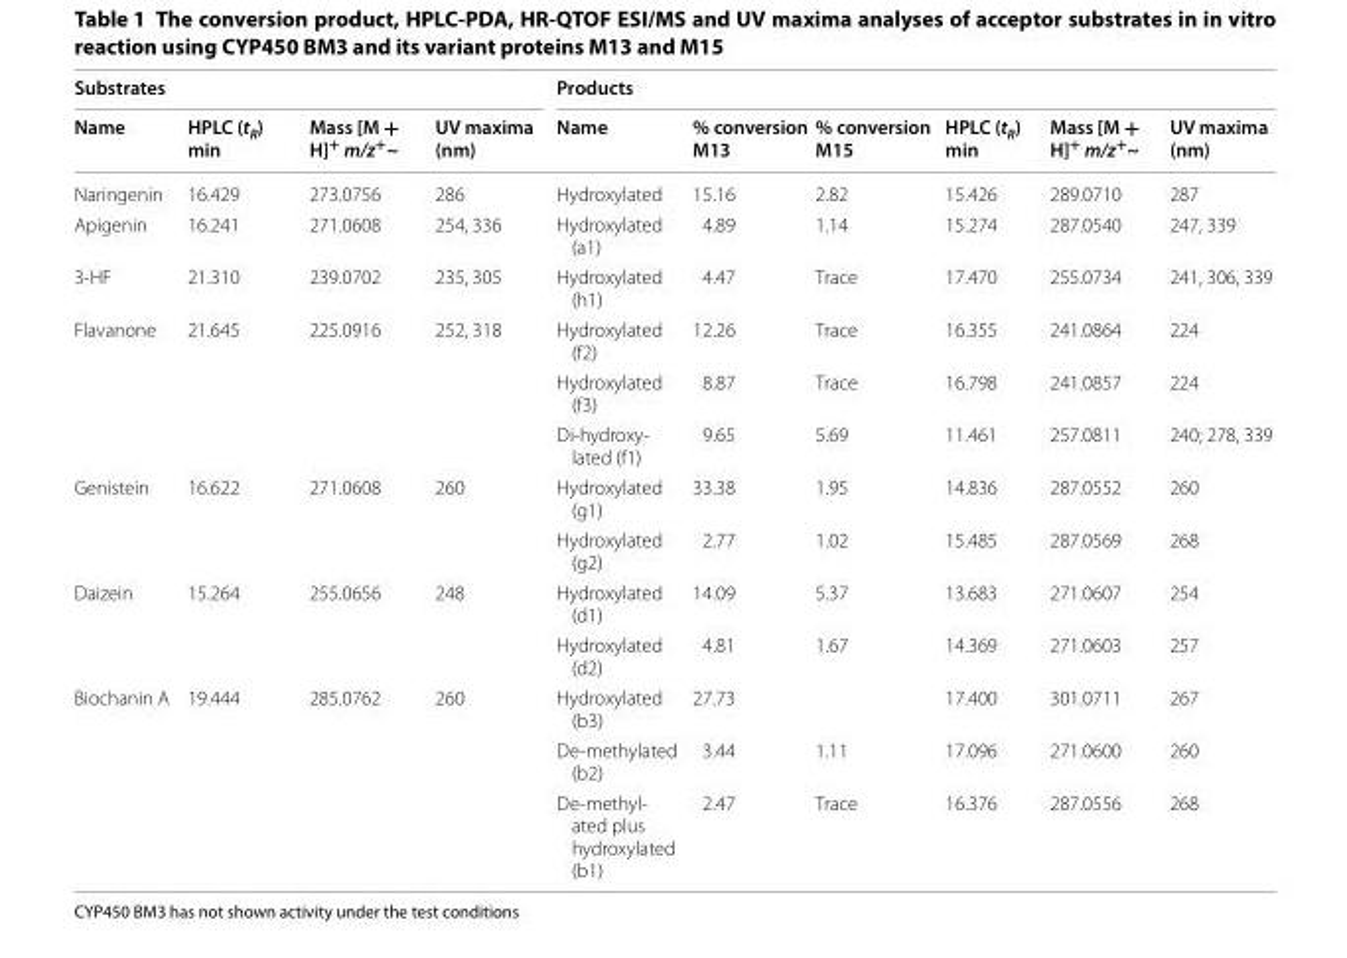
<table><thead><tr><td colspan="4">Substrates</td><td colspan="6">Products</td></tr><tr><td>Name</td><td>HPLC (t<sub>R</sub>) min</td><td>Mass [M + H]<sup>+</sup> m/z<sup>+</sup>~</td><td>UV maxima (nm)</td><td>Name</td><td>% conversion M13</td><td>% conversion M15</td><td>HPLC (t<sub>R</sub>) min</td><td>Mass [M + H]<sup>+</sup> m/z<sup>+</sup>~</td><td>UV maxima (nm)</td></tr></thead><tbody><tr><td>Naringenin</td><td>16.429</td><td>273.0756</td><td>286</td><td>Hydroxylated</td><td>15.16</td><td>2.82</td><td>15.426</td><td>289.0710</td><td>287</td></tr><tr><td>Apigenin</td><td>16.241</td><td>271.0608</td><td>254, 336</td><td>Hydroxylated (a1)</td><td>4.89</td><td>1.14</td><td>15.274</td><td>287.0540</td><td>247, 339</td></tr><tr><td>3‑HF</td><td>21.310</td><td>239.0702</td><td>235, 305</td><td>Hydroxylated (h1)</td><td>4.47</td><td>Trace</td><td>17.470</td><td>255.0734</td><td>241, 306, 339</td></tr><tr><td rowspan="3">Flavanone</td><td rowspan="3">21.645</td><td rowspan="3">225.0916</td><td rowspan="3">252, 318</td><td>Hydroxylated (f2)</td><td>12.26</td><td>Trace</td><td>16.355</td><td>241.0864</td><td>224</td></tr><tr><td>Hydroxylated (f3)</td><td>8.87</td><td>Trace</td><td>16.798</td><td>241.0857</td><td>224</td></tr><tr><td>Di‑hydroxy‑ lated (f1)</td><td>9.65</td><td>5.69</td><td>11.461</td><td>257.0811</td><td>240; 278, 339</td></tr><tr><td rowspan="2">Genistein</td><td rowspan="2">16.622</td><td rowspan="2">271.0608</td><td rowspan="2">260</td><td>Hydroxylated (g1)</td><td>33.38</td><td>1.95</td><td>14.836</td><td>287.0552</td><td>260</td></tr><tr><td>Hydroxylated (g2)</td><td>2.77</td><td>1.02</td><td>15.485</td><td>287.0569</td><td>268</td></tr><tr><td rowspan="2">Daizein</td><td rowspan="2">15.264</td><td rowspan="2">255.0656</td><td rowspan="2">248</td><td>Hydroxylated (d1)</td><td>14.09</td><td>5.37</td><td>13.683</td><td>271.0607</td><td>254</td></tr><tr><td>Hydroxylated (d2)</td><td>4.81</td><td>1.67</td><td>14.369</td><td>271.0603</td><td>257</td></tr><tr><td rowspan="3">Biochanin A</td><td rowspan="3">19.444</td><td rowspan="3">285.0762</td><td rowspan="3">260</td><td>Hydroxylated (b3)</td><td>27.73</td><td></td><td>17.400</td><td>301.0711</td><td>267</td></tr><tr><td>De‑methylated (b2)</td><td>3.44</td><td>1.11</td><td>17.096</td><td>271.0600</td><td>260</td></tr><tr><td>De‑methyl‑ ated plus hydroxylated (b1)</td><td>2.47</td><td>Trace</td><td>16.376</td><td>287.0556</td><td>268</td></tr></tbody></table>